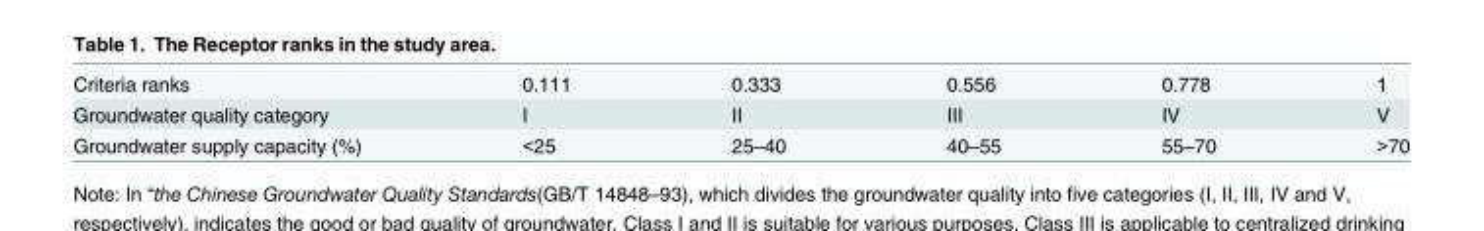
<table><tbody><tr><td>Criteria ranks</td><td>0.111</td><td>0.333</td><td>0.556</td><td>0.778</td><td>1</td></tr><tr><td>Groundwater quality category</td><td>I</td><td>II</td><td>III</td><td>IV</td><td>V</td></tr><tr><td>Groundwater supply capacity (%)</td><td>&lt;25</td><td>25–40</td><td>40–55</td><td>55–70</td><td>&gt;70</td></tr></tbody></table>